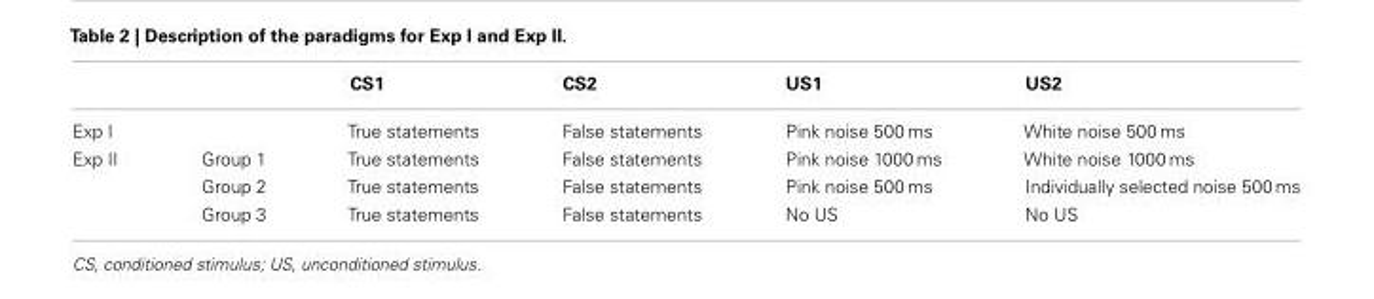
<table><thead><tr><td></td><td></td><td>CS1</td><td>CS2</td><td>US1</td><td>US2</td></tr></thead><tbody><tr><td>Exp I</td><td></td><td>True statements</td><td>False statements</td><td>Pink noise 500 ms</td><td>White noise 500 ms</td></tr><tr><td rowspan="3">Exp II</td><td>Group 1</td><td>True statements</td><td>False statements</td><td>Pink noise 1000 ms</td><td>White noise 1000 ms</td></tr><tr><td>Group 2</td><td>True statements</td><td>False statements</td><td>Pink noise 500 ms</td><td>Individually selected noise 500 ms</td></tr><tr><td>Group 3</td><td>True statements</td><td>False statements</td><td>No US</td><td>No US</td></tr></tbody></table>